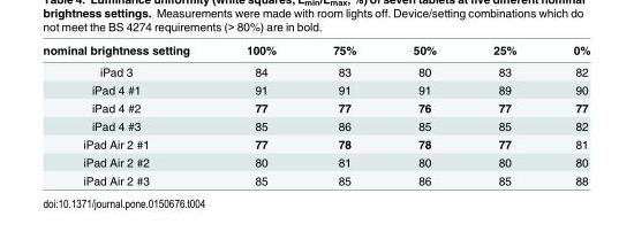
<table><thead><tr><td>nominal brightness setting</td><td>100%</td><td>75%</td><td>50%</td><td>25%</td><td>0%</td></tr></thead><tbody><tr><td>iPad 3</td><td>84</td><td>83</td><td>80</td><td>83</td><td>82</td></tr><tr><td>iPad 4 #1</td><td>91</td><td>91</td><td>91</td><td>89</td><td>90</td></tr><tr><td>iPad 4 #2</td><td>77</td><td>77</td><td>76</td><td>77</td><td>77</td></tr><tr><td>iPad 4 #3</td><td>85</td><td>86</td><td>85</td><td>85</td><td>82</td></tr><tr><td>iPad Air 2 #1</td><td>77</td><td>78</td><td>78</td><td>77</td><td>81</td></tr><tr><td>iPad Air 2 #2</td><td>80</td><td>81</td><td>80</td><td>80</td><td>80</td></tr><tr><td>iPad Air 2 #3</td><td>85</td><td>85</td><td>86</td><td>85</td><td>88</td></tr></tbody></table>